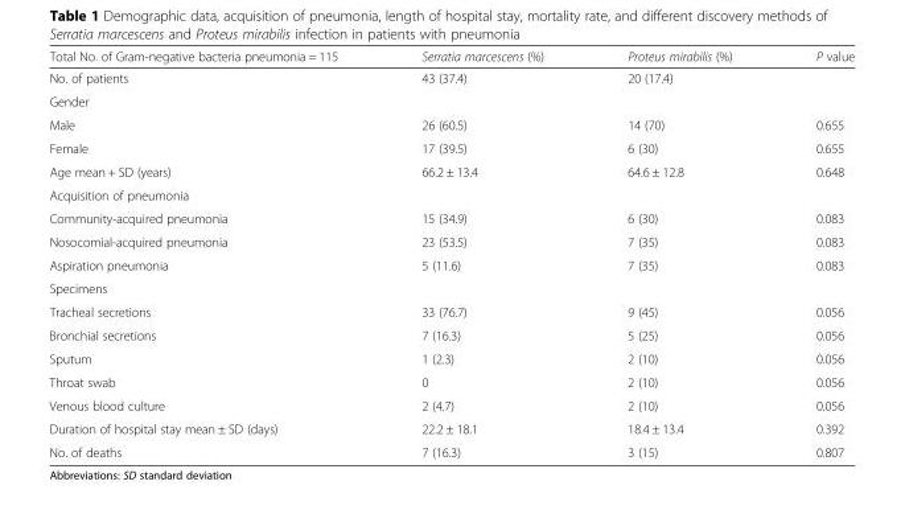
<table><thead><tr><td>Total No. of Gram-negative bacteria pneumonia = 115</td><td>Serratia marcescens (%)</td><td>Proteus mirabilis (%)</td><td>P value</td></tr></thead><tbody><tr><td>No. of patients</td><td>43 (37.4)</td><td>20 (17.4)</td><td></td></tr><tr><td colspan="4">Gender</td></tr><tr><td>Male</td><td>26 (60.5)</td><td>14 (70)</td><td>0.655</td></tr><tr><td>Female</td><td>17 (39.5)</td><td>6 (30)</td><td>0.655</td></tr><tr><td>Age mean + SD (years)</td><td>66.2 ± 13.4</td><td>64.6 ± 12.8</td><td>0.648</td></tr><tr><td colspan="4">Acquisition of pneumonia</td></tr><tr><td>Community-acquired pneumonia</td><td>15 (34.9)</td><td>6 (30)</td><td>0.083</td></tr><tr><td>Nosocomial-acquired pneumonia</td><td>23 (53.5)</td><td>7 (35)</td><td>0.083</td></tr><tr><td>Aspiration pneumonia</td><td>5 (11.6)</td><td>7 (35)</td><td>0.083</td></tr><tr><td colspan="4">Specimens</td></tr><tr><td>Tracheal secretions</td><td>33 (76.7)</td><td>9 (45)</td><td>0.056</td></tr><tr><td>Bronchial secretions</td><td>7 (16.3)</td><td>5 (25)</td><td>0.056</td></tr><tr><td>Sputum</td><td>1 (2.3)</td><td>2 (10)</td><td>0.056</td></tr><tr><td>Throat swab</td><td>0</td><td>2 (10)</td><td>0.056</td></tr><tr><td>Venous blood culture</td><td>2 (4.7)</td><td>2 (10)</td><td>0.056</td></tr><tr><td>Duration of hospital stay mean ± SD (days)</td><td>22.2 ± 18.1</td><td>18.4 ± 13.4</td><td>0.392</td></tr><tr><td>No. of deaths</td><td>7 (16.3)</td><td>3 (15)</td><td>0.807</td></tr></tbody></table>